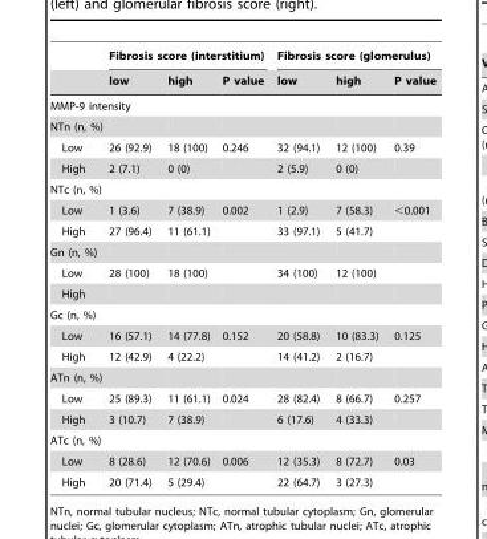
<table><thead><tr><td rowspan="2"></td><td colspan="3">Fibrosis score (interstitium)</td><td colspan="3">Fibrosis score (glomerulus)</td></tr><tr><td>low</td><td>high</td><td>P value</td><td>low</td><td>high</td><td>P value</td></tr></thead><tbody><tr><td colspan="7">MMP-9 intensity</td></tr><tr><td colspan="7">NTn (n, %)</td></tr><tr><td>Low</td><td>26 (92.9)</td><td>18 (100)</td><td>0.246</td><td>32 (94.1)</td><td>12 (100)</td><td>0.39</td></tr><tr><td>High</td><td>2 (7.1)</td><td>0 (0)</td><td></td><td>2 (5.9)</td><td>0 (0)</td><td></td></tr><tr><td colspan="7">NTc (n, %)</td></tr><tr><td>Low</td><td>1 (3.6)</td><td>7 (38.9)</td><td>0.002</td><td>1 (2.9)</td><td>7 (58.3)</td><td>&lt;0.001</td></tr><tr><td>High</td><td>27 (96.4)</td><td>11 (61.1)</td><td></td><td>33 (97.1)</td><td>5 (41.7)</td><td></td></tr><tr><td colspan="7">Gn (n, %)</td></tr><tr><td>Low</td><td>28 (100)</td><td>18 (100)</td><td></td><td>34 (100)</td><td>12 (100)</td><td></td></tr><tr><td colspan="7">High</td></tr><tr><td colspan="7">Gc (n, %)</td></tr><tr><td>Low</td><td>16 (57.1)</td><td>14 (77.8)</td><td>0.152</td><td>20 (58.8)</td><td>10 (83.3)</td><td>0.125</td></tr><tr><td>High</td><td>12 (42.9)</td><td>4 (22.2)</td><td></td><td>14 (41.2)</td><td>2 (16.7)</td><td></td></tr><tr><td colspan="7">ATn (n, %)</td></tr><tr><td>Low</td><td>25 (89.3)</td><td>11 (61.1)</td><td>0.024</td><td>28 (82.4)</td><td>8 (66.7)</td><td>0.257</td></tr><tr><td>High</td><td>3 (10.7)</td><td>7 (38.9)</td><td></td><td>6 (17.6)</td><td>4 (33.3)</td><td></td></tr><tr><td colspan="7">ATc (n, %)</td></tr><tr><td>Low</td><td>8 (28.6)</td><td>12 (70.6)</td><td>0.006</td><td>12 (35.3)</td><td>8 (72.7)</td><td>0.03</td></tr><tr><td>High</td><td>20 (71.4)</td><td>5 (29.4)</td><td></td><td>22 (64.7)</td><td>3 (27.3)</td><td></td></tr></tbody></table>